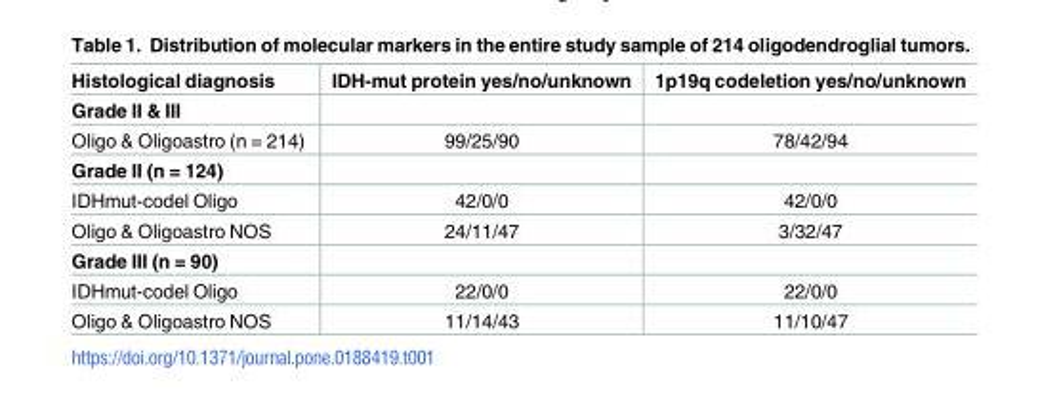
<table><thead><tr><td>Histological diagnosis</td><td>IDH-mut protein yes/no/unknown</td><td>1p19q codeletion yes/no/unknown</td></tr></thead><tbody><tr><td colspan="3">Grade II &amp; III</td></tr><tr><td>Oligo &amp; Oligoastro (n = 214)</td><td>99/25/90</td><td>78/42/94</td></tr><tr><td colspan="3">Grade II (n = 124)</td></tr><tr><td>IDHmut-codel Oligo</td><td>42/0/0</td><td>42/0/0</td></tr><tr><td>Oligo &amp; Oligoastro NOS</td><td>24/11/47</td><td>3/32/47</td></tr><tr><td colspan="3">Grade III (n = 90)</td></tr><tr><td>IDHmut-codel Oligo</td><td>22/0/0</td><td>22/0/0</td></tr><tr><td>Oligo &amp; Oligoastro NOS</td><td>11/14/43</td><td>11/10/47</td></tr></tbody></table>